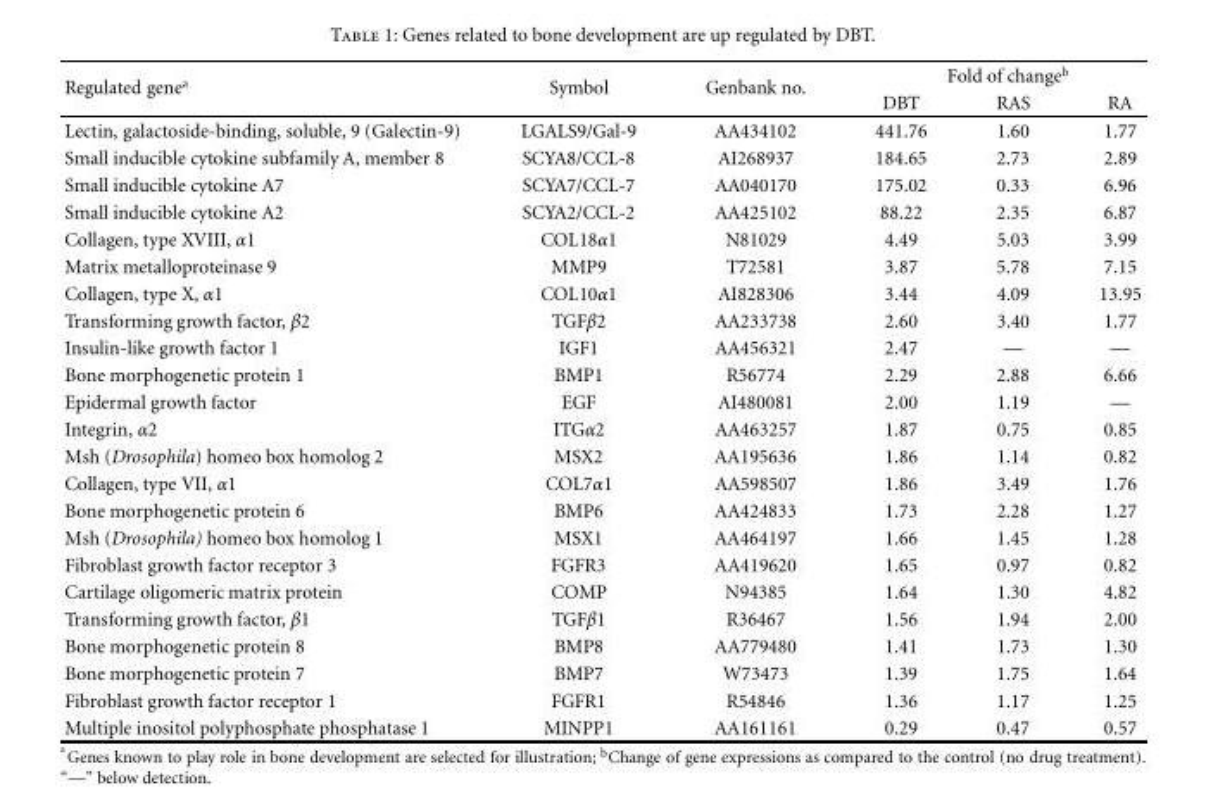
<table><thead><tr><td rowspan="2">Regulated gene<sup>a</sup></td><td rowspan="2">Symbol</td><td rowspan="2">Genbank no.</td><td colspan="3">Fold of change<sup>b</sup></td></tr><tr><td>DBT</td><td>RAS</td><td>RA</td></tr></thead><tbody><tr><td>Lectin, galactoside-binding, soluble, 9 (Galectin-9)</td><td>LGALS9/Gal-9</td><td>AA434102</td><td>441.76</td><td>1.60</td><td>1.77</td></tr><tr><td>Small inducible cytokine subfamily A, member 8</td><td>SCYA8/CCL-8</td><td>AI268937</td><td>184.65</td><td>2.73</td><td>2.89</td></tr><tr><td>Small inducible cytokine A7</td><td>SCYA7/CCL-7</td><td>AA040170</td><td>175.02</td><td>0.33</td><td>6.96</td></tr><tr><td>Small inducible cytokine A2</td><td>SCYA2/CCL-2</td><td>AA425102</td><td>88.22</td><td>2.35</td><td>6.87</td></tr><tr><td>Collagen, type XVIII, α1</td><td>COL18α1</td><td>N81029</td><td>4.49</td><td>5.03</td><td>3.99</td></tr><tr><td>Matrix metalloproteinase 9</td><td>MMP9</td><td>T72581</td><td>3.87</td><td>5.78</td><td>7.15</td></tr><tr><td>Collagen, type X, α1</td><td>COL10α1</td><td>AI828306</td><td>3.44</td><td>4.09</td><td>13.95</td></tr><tr><td>Transforming growth factor, β2</td><td>TGFβ2</td><td>AA233738</td><td>2.60</td><td>3.40</td><td>1.77</td></tr><tr><td>Insulin-like growth factor 1</td><td>IGF1</td><td>AA456321</td><td>2.47</td><td>—</td><td>—</td></tr><tr><td>Bone morphogenetic protein 1</td><td>BMP1</td><td>R56774</td><td>2.29</td><td>2.88</td><td>6.66</td></tr><tr><td>Epidermal growth factor</td><td>EGF</td><td>AI480081</td><td>2.00</td><td>1.19</td><td>—</td></tr><tr><td>Integrin, α2</td><td>ITGα2</td><td>AA463257</td><td>1.87</td><td>0.75</td><td>0.85</td></tr><tr><td>Msh (Drosophila) homeo box homolog 2</td><td>MSX2</td><td>AA195636</td><td>1.86</td><td>1.14</td><td>0.82</td></tr><tr><td>Collagen, type VII, α1</td><td>COL7α1</td><td>AA598507</td><td>1.86</td><td>3.49</td><td>1.76</td></tr><tr><td>Bone morphogenetic protein 6</td><td>BMP6</td><td>AA424833</td><td>1.73</td><td>2.28</td><td>1.27</td></tr><tr><td>Msh (Drosophila) homeo box homolog 1</td><td>MSX1</td><td>AA464197</td><td>1.66</td><td>1.45</td><td>1.28</td></tr><tr><td>Fibroblast growth factor receptor 3</td><td>FGFR3</td><td>AA419620</td><td>1.65</td><td>0.97</td><td>0.82</td></tr><tr><td>Cartilage oligomeric matrix protein</td><td>COMP</td><td>N94385</td><td>1.64</td><td>1.30</td><td>4.82</td></tr><tr><td>Transforming growth factor, β1</td><td>TGFβ1</td><td>R36467</td><td>1.56</td><td>1.94</td><td>2.00</td></tr><tr><td>Bone morphogenetic protein 8</td><td>BMP8</td><td>AA779480</td><td>1.41</td><td>1.73</td><td>1.30</td></tr><tr><td>Bone morphogenetic protein 7</td><td>BMP7</td><td>W73473</td><td>1.39</td><td>1.75</td><td>1.64</td></tr><tr><td>Fibroblast growth factor receptor 1</td><td>FGFR1</td><td>R54846</td><td>1.36</td><td>1.17</td><td>1.25</td></tr><tr><td>Multiple inositol polyphosphate phosphatase 1</td><td>MINPP1</td><td>AA161161</td><td>0.29</td><td>0.47</td><td>0.57</td></tr></tbody></table>